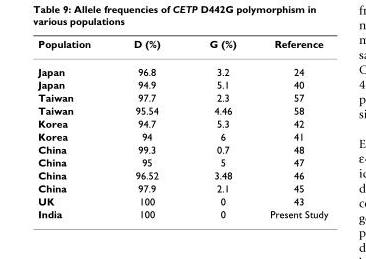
<table><thead><tr><td>Population</td><td>D (%)</td><td>G (%)</td><td>Reference</td></tr></thead><tbody><tr><td>Japan</td><td>96.8</td><td>3.2</td><td>24</td></tr><tr><td>Japan</td><td>94.9</td><td>5.1</td><td>40</td></tr><tr><td>Taiwan</td><td>97.7</td><td>2.3</td><td>57</td></tr><tr><td>Taiwan</td><td>95.54</td><td>4.46</td><td>58</td></tr><tr><td>Korea</td><td>94.7</td><td>5.3</td><td>42</td></tr><tr><td>Korea</td><td>94</td><td>6</td><td>41</td></tr><tr><td>China</td><td>99.3</td><td>0.7</td><td>48</td></tr><tr><td>China</td><td>95</td><td>5</td><td>47</td></tr><tr><td>China</td><td>96.52</td><td>3.48</td><td>46</td></tr><tr><td>China</td><td>97.9</td><td>2.1</td><td>45</td></tr><tr><td>UK</td><td>100</td><td>0</td><td>43</td></tr><tr><td>India</td><td>100</td><td>0</td><td>Present Study</td></tr></tbody></table>